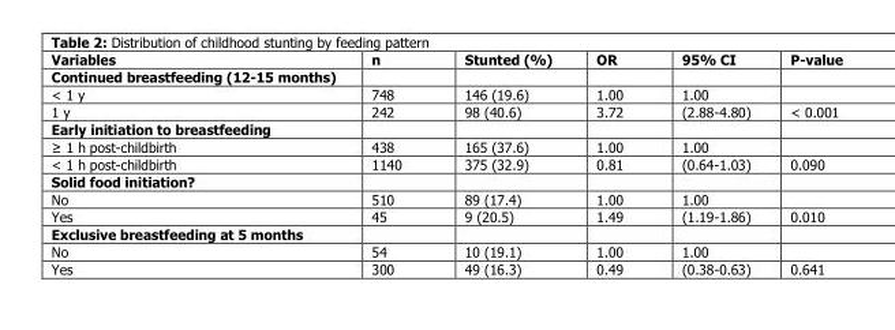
<table><thead><tr><td>Variables</td><td>n</td><td>Stunted (%)</td><td>OR</td><td>95% CI</td><td>P-value</td></tr></thead><tbody><tr><td colspan="6">Continued breastfeeding (12-15 months)</td></tr><tr><td>&lt; 1 y</td><td>748</td><td>146 (19.6)</td><td>1.00</td><td>1.00</td><td></td></tr><tr><td>1 y</td><td>242</td><td>98 (40.6)</td><td>3.72</td><td>(2.88-4.80)</td><td>&lt; 0.001</td></tr><tr><td colspan="6">Early initiation to breastfeeding</td></tr><tr><td>≥ 1 h post-childbirth</td><td>438</td><td>165 (37.6)</td><td>1.00</td><td>1.00</td><td></td></tr><tr><td>&lt; 1 h post-childbirth</td><td>1140</td><td>375 (32.9)</td><td>0.81</td><td>(0.64-1.03)</td><td>0.090</td></tr><tr><td colspan="6">Solid food initiation?</td></tr><tr><td>No</td><td>510</td><td>89 (17.4)</td><td>1.00</td><td>1.00</td><td></td></tr><tr><td>Yes</td><td>45</td><td>9 (20.5)</td><td>1.49</td><td>(1.19-1.86)</td><td>0.010</td></tr><tr><td colspan="6">Exclusive breastfeeding at 5 months</td></tr><tr><td>No</td><td>54</td><td>10 (19.1)</td><td>1.00</td><td>1.00</td><td></td></tr><tr><td>Yes</td><td>300</td><td>49 (16.3)</td><td>0.49</td><td>(0.38-0.63)</td><td>0.641</td></tr></tbody></table>